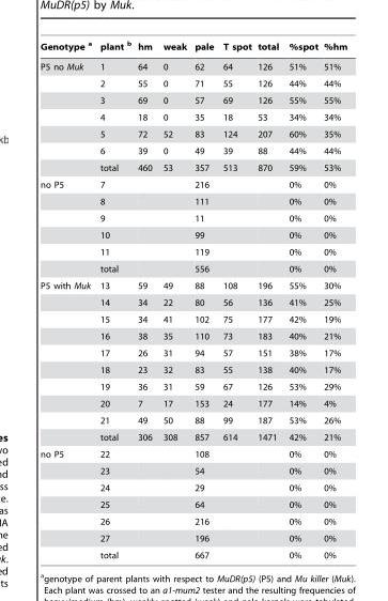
<table><thead><tr><td>Genotype a</td><td>plant b</td><td>hm</td><td>weak</td><td>pale</td><td>T spot</td><td>total</td><td>%spot</td><td>%hm</td></tr></thead><tbody><tr><td rowspan="7">P5 no Muk</td><td>1</td><td>64</td><td>0</td><td>62</td><td>64</td><td>126</td><td>51%</td><td>51%</td></tr><tr><td>2</td><td>55</td><td>0</td><td>71</td><td>55</td><td>126</td><td>44%</td><td>44%</td></tr><tr><td>3</td><td>69</td><td>0</td><td>57</td><td>69</td><td>126</td><td>55%</td><td>55%</td></tr><tr><td>4</td><td>18</td><td>0</td><td>35</td><td>18</td><td>53</td><td>34%</td><td>34%</td></tr><tr><td>5</td><td>72</td><td>52</td><td>83</td><td>124</td><td>207</td><td>60%</td><td>35%</td></tr><tr><td>6</td><td>39</td><td>0</td><td>49</td><td>39</td><td>88</td><td>44%</td><td>44%</td></tr><tr><td>total</td><td>460</td><td>53</td><td>357</td><td>513</td><td>870</td><td>59%</td><td>53%</td></tr><tr><td rowspan="6">no P5</td><td>7</td><td></td><td></td><td>216</td><td></td><td></td><td>0%</td><td>0%</td></tr><tr><td>8</td><td></td><td></td><td>111</td><td></td><td></td><td>0%</td><td>0%</td></tr><tr><td>9</td><td></td><td></td><td>11</td><td></td><td></td><td>0%</td><td>0%</td></tr><tr><td>10</td><td></td><td></td><td>99</td><td></td><td></td><td>0%</td><td>0%</td></tr><tr><td>11</td><td></td><td></td><td>119</td><td></td><td></td><td>0%</td><td>0%</td></tr><tr><td>total</td><td></td><td></td><td>556</td><td></td><td></td><td>0%</td><td>0%</td></tr><tr><td rowspan="10">P5 with Muk</td><td>13</td><td>59</td><td>49</td><td>88</td><td>108</td><td>196</td><td>55%</td><td>30%</td></tr><tr><td>14</td><td>34</td><td>22</td><td>80</td><td>56</td><td>136</td><td>41%</td><td>25%</td></tr><tr><td>15</td><td>34</td><td>41</td><td>102</td><td>75</td><td>177</td><td>42%</td><td>19%</td></tr><tr><td>16</td><td>38</td><td>35</td><td>110</td><td>73</td><td>183</td><td>40%</td><td>21%</td></tr><tr><td>17</td><td>26</td><td>31</td><td>94</td><td>57</td><td>151</td><td>38%</td><td>17%</td></tr><tr><td>18</td><td>23</td><td>32</td><td>83</td><td>55</td><td>138</td><td>40%</td><td>17%</td></tr><tr><td>19</td><td>36</td><td>31</td><td>59</td><td>67</td><td>126</td><td>53%</td><td>29%</td></tr><tr><td>20</td><td>7</td><td>17</td><td>153</td><td>24</td><td>177</td><td>14%</td><td>4%</td></tr><tr><td>21</td><td>49</td><td>50</td><td>88</td><td>99</td><td>187</td><td>53%</td><td>26%</td></tr><tr><td>total</td><td>306</td><td>308</td><td>857</td><td>614</td><td>1471</td><td>42%</td><td>21%</td></tr><tr><td rowspan="7">no P5</td><td>22</td><td></td><td></td><td>108</td><td></td><td></td><td>0%</td><td>0%</td></tr><tr><td>23</td><td></td><td></td><td>54</td><td></td><td></td><td>0%</td><td>0%</td></tr><tr><td>24</td><td></td><td></td><td>29</td><td></td><td></td><td>0%</td><td>0%</td></tr><tr><td>25</td><td></td><td></td><td>64</td><td></td><td></td><td>0%</td><td>0%</td></tr><tr><td>26</td><td></td><td></td><td>216</td><td></td><td></td><td>0%</td><td>0%</td></tr><tr><td>27</td><td></td><td></td><td>196</td><td></td><td></td><td>0%</td><td>0%</td></tr><tr><td>total</td><td></td><td></td><td>667</td><td></td><td></td><td>0%</td><td>0%</td></tr></tbody></table>